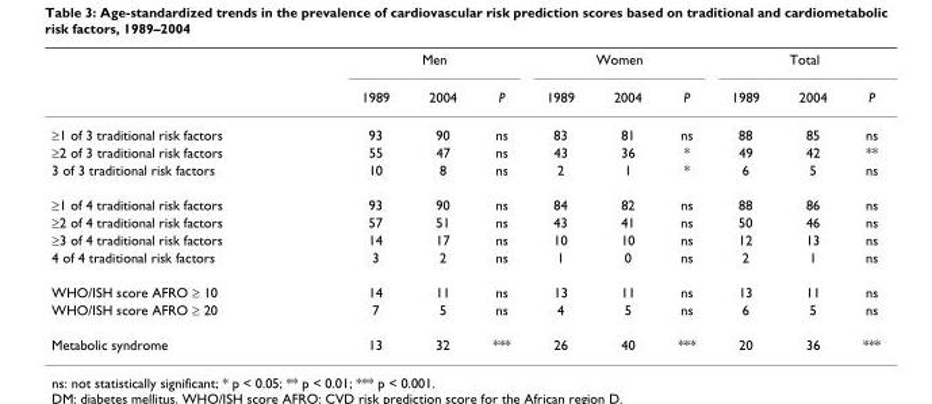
<table><thead><tr><td rowspan="2"></td><td colspan="3">Men</td><td colspan="3">Women</td><td colspan="3">Total</td></tr><tr><td>1989</td><td>2004</td><td>P</td><td>1989</td><td>2004</td><td>P</td><td>1989</td><td>2004</td><td>P</td></tr></thead><tbody><tr><td>≥1 of 3 traditional risk factors</td><td>93</td><td>90</td><td>ns</td><td>83</td><td>81</td><td>ns</td><td>88</td><td>85</td><td>ns</td></tr><tr><td>≥2 of 3 traditional risk factors</td><td>55</td><td>47</td><td>ns</td><td>43</td><td>36</td><td>*</td><td>49</td><td>42</td><td>**</td></tr><tr><td>3 of 3 traditional risk factors</td><td>10</td><td>8</td><td>ns</td><td>2</td><td>1</td><td>*</td><td>6</td><td>5</td><td>ns</td></tr><tr><td>≥1 of 4 traditional risk factors</td><td>93</td><td>90</td><td>ns</td><td>84</td><td>82</td><td>ns</td><td>88</td><td>86</td><td>ns</td></tr><tr><td>≥2 of 4 traditional risk factors</td><td>57</td><td>51</td><td>ns</td><td>43</td><td>41</td><td>ns</td><td>50</td><td>46</td><td>ns</td></tr><tr><td>≥3 of 4 traditional risk factors</td><td>14</td><td>17</td><td>ns</td><td>10</td><td>10</td><td>ns</td><td>12</td><td>13</td><td>ns</td></tr><tr><td>4 of 4 traditional risk factors</td><td>3</td><td>2</td><td>ns</td><td>1</td><td>0</td><td>ns</td><td>2</td><td>1</td><td>ns</td></tr><tr><td>WHO/ISH score AFRO ≥ 10</td><td>14</td><td>11</td><td>ns</td><td>13</td><td>11</td><td>ns</td><td>13</td><td>11</td><td>ns</td></tr><tr><td>WHO/ISH score AFRO ≥ 20</td><td>7</td><td>5</td><td>ns</td><td>4</td><td>5</td><td>ns</td><td>6</td><td>5</td><td>ns</td></tr><tr><td>Metabolic syndrome</td><td>13</td><td>32</td><td>***</td><td>26</td><td>40</td><td>***</td><td>20</td><td>36</td><td>***</td></tr></tbody></table>